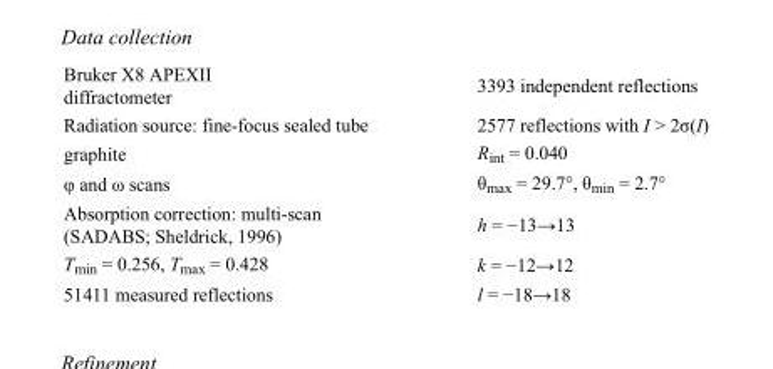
<table><tbody><tr><td>Bruker X8 APEXII diffractometer</td><td>3393 independent reflections</td></tr><tr><td>Radiation source: fine-focus sealed tube</td><td>2577 reflections with I &gt; 2σ(I)</td></tr><tr><td>graphite</td><td>R<sub>int</sub> = 0.040</td></tr><tr><td>φ and ω scans</td><td>θ<sub>max</sub> = 29.7°, θ<sub>min</sub> = 2.7°</td></tr><tr><td>Absorption correction: multi-scan (SADABS; Sheldrick, 1996)</td><td>h = −13→13</td></tr><tr><td>T<sub>min</sub> = 0.256, T<sub>max</sub> = 0.428</td><td>k = −12→12</td></tr><tr><td>51411 measured reflections</td><td>l = −18→18</td></tr></tbody></table>